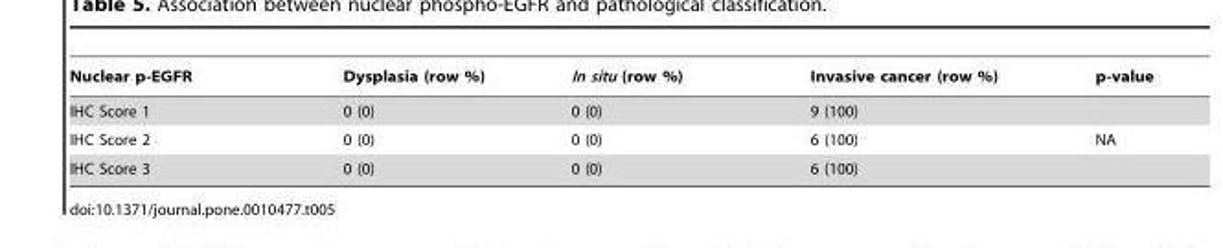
<table><thead><tr><td>Nuclear p-EGFR</td><td>Dysplasia (row %)</td><td>In situ (row %)</td><td>Invasive cancer (row %)</td><td>p-value</td></tr></thead><tbody><tr><td>IHC Score 1</td><td>0 (0)</td><td>0 (0)</td><td>9 (100)</td><td></td></tr><tr><td>IHC Score 2</td><td>0 (0)</td><td>0 (0)</td><td>6 (100)</td><td>NA</td></tr><tr><td>IHC Score 3</td><td>0 (0)</td><td>0 (0)</td><td>6 (100)</td><td></td></tr></tbody></table>